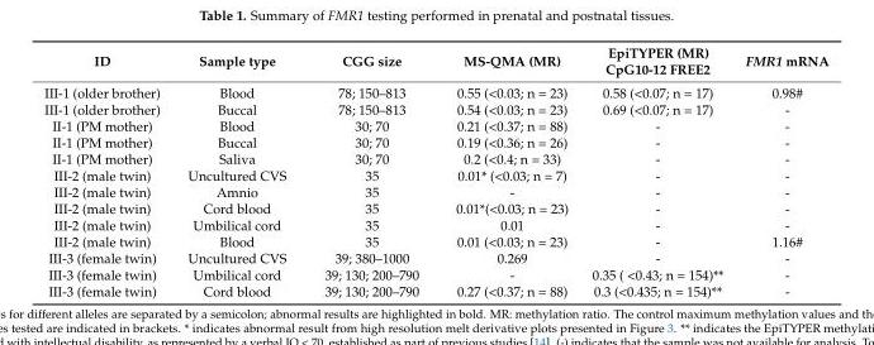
<table><thead><tr><td>ID</td><td>Sample type</td><td>CGG size</td><td>MS-QMA (MR)</td><td>EpiTYPER (MR) CpG10-12 FREE2</td><td>FMR1 mRNA</td></tr></thead><tbody><tr><td>III-1 (older brother)</td><td>Blood</td><td>78; 150–813</td><td>0.55 (&lt;0.03; n = 23)</td><td>0.58 (&lt;0.07; n = 17)</td><td>0.98#</td></tr><tr><td>III-1 (older brother)</td><td>Buccal</td><td>78; 150–813</td><td>0.54 (&lt;0.03; n = 23)</td><td>0.69 (&lt;0.07; n = 17)</td><td>-</td></tr><tr><td>II-1 (PM mother)</td><td>Blood</td><td>30; 70</td><td>0.21 (&lt;0.37; n = 88)</td><td>-</td><td>-</td></tr><tr><td>II-1 (PM mother)</td><td>Buccal</td><td>30; 70</td><td>0.19 (&lt;0.36; n = 26)</td><td>-</td><td>-</td></tr><tr><td>II-1 (PM mother)</td><td>Saliva</td><td>30; 70</td><td>0.2 (&lt;0.4; n = 33)</td><td>-</td><td>-</td></tr><tr><td>III-2 (male twin)</td><td>Uncultured CVS</td><td>35</td><td>0.01* (&lt;0.03; n = 7)</td><td>-</td><td>-</td></tr><tr><td>III-2 (male twin)</td><td>Amnio</td><td>35</td><td>-</td><td>-</td><td>-</td></tr><tr><td>III-2 (male twin)</td><td>Cord blood</td><td>35</td><td>0.01*(&lt;0.03; n = 23)</td><td>-</td><td>-</td></tr><tr><td>III-2 (male twin)</td><td>Umbilical cord</td><td>35</td><td>0.01</td><td>-</td><td>-</td></tr><tr><td>III-2 (male twin)</td><td>Blood</td><td>35</td><td>0.01 (&lt;0.03; n = 23)</td><td>-</td><td>1.16#</td></tr><tr><td>III-3 (female twin)</td><td>Uncultured CVS</td><td>39; 380–1000</td><td>0.269</td><td>-</td><td>-</td></tr><tr><td>III-3 (female twin)</td><td>Umbilical cord</td><td>39; 130; 200–790</td><td>-</td><td>0.35 ( &lt;0.43; n = 154)**</td><td>-</td></tr><tr><td>III-3 (female twin)</td><td>Cord blood</td><td>39; 130; 200–790</td><td>0.27 (&lt;0.37; n = 88)</td><td>0.3 (&lt;0.435; n = 154)**</td><td>-</td></tr></tbody></table>